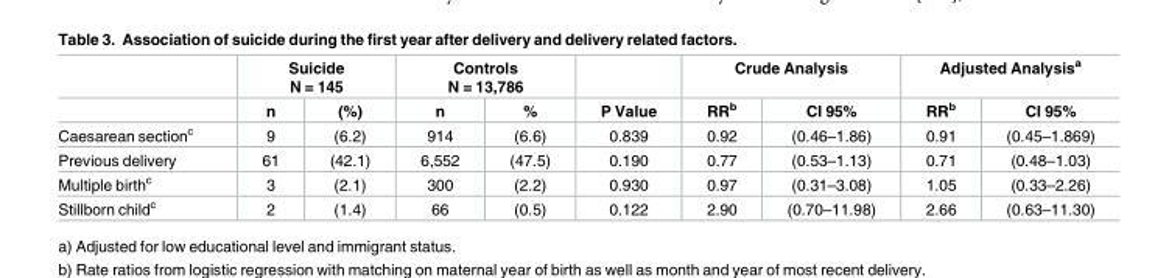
<table><thead><tr><td rowspan="2"></td><td colspan="2">Suicide N = 145</td><td colspan="2">Controls N = 13,786</td><td rowspan="2">P Value</td><td colspan="2">Crude Analysis</td><td colspan="2">Adjusted Analysis<sup>a</sup></td></tr><tr><td>n</td><td>(%)</td><td>n</td><td>%</td><td>RR<sup>b</sup></td><td>CI 95%</td><td>RR<sup>b</sup></td><td>CI 95%</td></tr></thead><tbody><tr><td>Caesarean section<sup>c</sup></td><td>9</td><td>(6.2)</td><td>914</td><td>(6.6)</td><td>0.839</td><td>0.92</td><td>(0.46–1.86)</td><td>0.91</td><td>(0.45–1.869)</td></tr><tr><td>Previous delivery</td><td>61</td><td>(42.1)</td><td>6,552</td><td>(47.5)</td><td>0.190</td><td>0.77</td><td>(0.53–1.13)</td><td>0.71</td><td>(0.48–1.03)</td></tr><tr><td>Multiple birth<sup>c</sup></td><td>3</td><td>(2.1)</td><td>300</td><td>(2.2)</td><td>0.930</td><td>0.97</td><td>(0.31–3.08)</td><td>1.05</td><td>(0.33–2.26)</td></tr><tr><td>Stillborn child<sup>c</sup></td><td>2</td><td>(1.4)</td><td>66</td><td>(0.5)</td><td>0.122</td><td>2.90</td><td>(0.70–11.98)</td><td>2.66</td><td>(0.63–11.30)</td></tr></tbody></table>